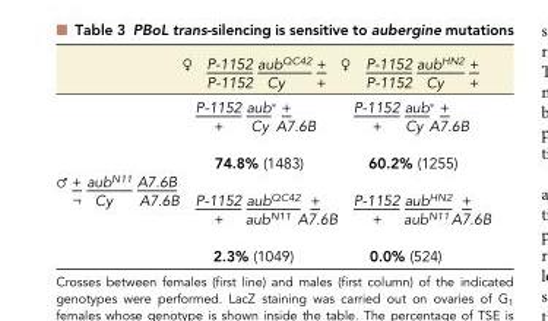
<table><thead><tr><td rowspan="2"></td><td rowspan="2">♀</td><td rowspan="2">P-1152 aubQC42 + P-1152 Cy +</td><td rowspan="2">♀</td><td rowspan="2">P-1152 aubHN2 + P-1152 Cy +</td></tr><tr></tr></thead><tbody><tr><td></td><td></td><td>P-1152 aub* +</td><td></td><td>P-1152 aub* +</td></tr><tr><td></td><td></td><td>+ Cy A7.6B</td><td></td><td>+ Cy A7.6B</td></tr><tr><td>♂ + aub<sup>N11</sup> A7.6B</td><td></td><td>74.8% (1483)</td><td></td><td>60.2% (1255)</td></tr><tr><td rowspan="3">¬ Cy A7.6B</td><td></td><td>P-1152 aub<sup>QC42</sup> +</td><td></td><td>P-1152 aub<sup>HN2</sup> +</td></tr><tr><td></td><td>+ aub<sup>N11</sup> A7.6B</td><td></td><td>+ aub<sup>N11</sup> A7.6B</td></tr><tr><td></td><td>2.3% (1049)</td><td></td><td>0.0% (524)</td></tr></tbody></table>